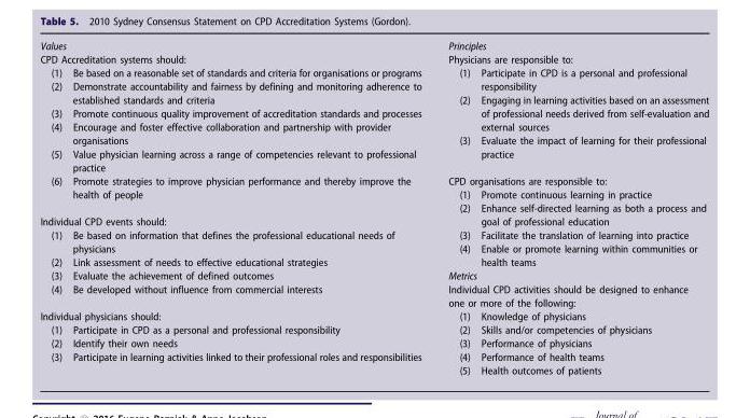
<table><tbody><tr><td>Values</td><td>Principles</td></tr><tr><td>CPD Accreditation systems should: (1) Be based on a reasonable set of standards and criteria for organisations or programs (2) Demonstrate accountability and fairness by defining and monitoring adherence to established standards and criteria (3) Promote continuous quality improvement of accreditation standards and processes (4) Encourage and foster effective collaboration and partnership with provider organisations (5) Value physician learning across a range of competencies relevant to professional practice (6) Promote strategies to improve physician performance and thereby improve the health of people Individual CPD events should: (1) Be based on information that defines the professional educational needs of physicians (2) Link assessment of needs to effective educational strategies (3) Evaluate the achievement of defined outcomes (4) Be developed without influence from commercial interests Individual physicians should: (1) Participate in CPD as a personal and professional responsibility (2) Identify their own needs (3) Participate in learning activities linked to their professional roles and responsibilities</td><td>Physicians are responsible to: (1) Participate in CPD is a personal and professional responsibility (2) Engaging in learning activities based on an assessment of professional needs derived from self-evaluation and external sources (3) Evaluate the impact of learning for their professional practice CPD organisations are responsible to: (1) Promote continuous learning in practice (2) Enhance self-directed learning as both a process and goal of professional education (3) Facilitate the translation of learning into practice (4) Enable or promote learning within communities or health teams Metrics Individual CPD activities should be designed to enhance one or more of the following: (1) Knowledge of physicians (2) Skills and/or competencies of physicians (3) Performance of physicians (4) Performance of health teams (5) Health outcomes of patients</td></tr></tbody></table>